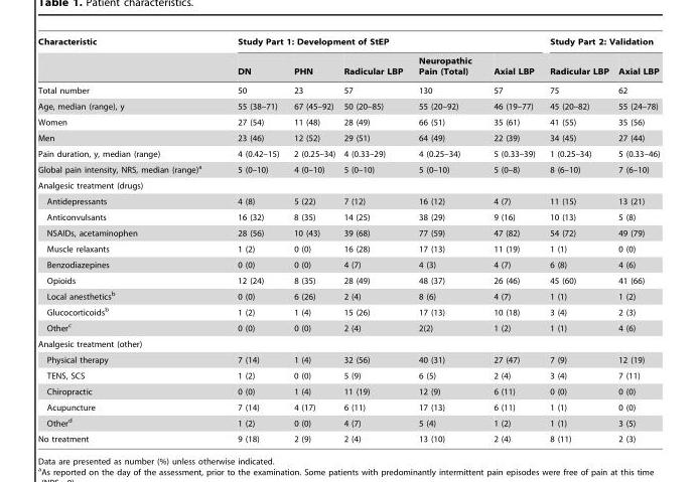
<table><thead><tr><td rowspan="2">Characteristic</td><td colspan="5">Study Part 1: Development of StEP</td><td colspan="2">Study Part 2: Validation</td></tr><tr><td>DN</td><td>PHN</td><td>Radicular LBP</td><td>Neuropathic Pain (Total)</td><td>Axial LBP</td><td>Radicular LBP</td><td>Axial LBP</td></tr></thead><tbody><tr><td>Total number</td><td>50</td><td>23</td><td>57</td><td>130</td><td>57</td><td>75</td><td>62</td></tr><tr><td>Age, median (range), y</td><td>55 (38–71)</td><td>67 (45–92)</td><td>50 (20–85)</td><td>55 (20–92)</td><td>46 (19–77)</td><td>45 (20–82)</td><td>55 (24–78)</td></tr><tr><td>Women</td><td>27 (54)</td><td>11 (48)</td><td>28 (49)</td><td>66 (51)</td><td>35 (61)</td><td>41 (55)</td><td>35 (56)</td></tr><tr><td>Men</td><td>23 (46)</td><td>12 (52)</td><td>29 (51)</td><td>64 (49)</td><td>22 (39)</td><td>34 (45)</td><td>27 (44)</td></tr><tr><td>Pain duration, y, median (range)</td><td>4 (0.42–15)</td><td>2 (0.25–34)</td><td>4 (0.33–29)</td><td>4 (0.25–34)</td><td>5 (0.33–39)</td><td>1 (0.25–34)</td><td>5 (0.33–46)</td></tr><tr><td>Global pain intensity, NRS, median (range)<sup>a</sup></td><td>5 (0–10)</td><td>4 (0–10)</td><td>5 (0–10)</td><td>5 (0–10)</td><td>5 (0–8)</td><td>8 (6–10)</td><td>7 (6–10)</td></tr><tr><td colspan="8">Analgesic treatment (drugs)</td></tr><tr><td>Antidepressants</td><td>4 (8)</td><td>5 (22)</td><td>7 (12)</td><td>16 (12)</td><td>4 (7)</td><td>11 (15)</td><td>13 (21)</td></tr><tr><td>Anticonvulsants</td><td>16 (32)</td><td>8 (35)</td><td>14 (25)</td><td>38 (29)</td><td>9 (16)</td><td>10 (13)</td><td>5 (8)</td></tr><tr><td>NSAIDs, acetaminophen</td><td>28 (56)</td><td>10 (43)</td><td>39 (68)</td><td>77 (59)</td><td>47 (82)</td><td>54 (72)</td><td>49 (79)</td></tr><tr><td>Muscle relaxants</td><td>1 (2)</td><td>0 (0)</td><td>16 (28)</td><td>17 (13)</td><td>11 (19)</td><td>1 (1)</td><td>0 (0)</td></tr><tr><td>Benzodiazepines</td><td>0 (0)</td><td>0 (0)</td><td>4 (7)</td><td>4 (3)</td><td>4 (7)</td><td>6 (8)</td><td>4 (6)</td></tr><tr><td>Opioids</td><td>12 (24)</td><td>8 (35)</td><td>28 (49)</td><td>48 (37)</td><td>26 (46)</td><td>45 (60)</td><td>41 (66)</td></tr><tr><td>Local anesthetics<sup>b</sup></td><td>0 (0)</td><td>6 (26)</td><td>2 (4)</td><td>8 (6)</td><td>4 (7)</td><td>1 (1)</td><td>1 (2)</td></tr><tr><td>Glucocorticoids<sup>b</sup></td><td>1 (2)</td><td>1 (4)</td><td>15 (26)</td><td>17 (13)</td><td>10 (18)</td><td>3 (4)</td><td>2 (3)</td></tr><tr><td>Other<sup>c</sup></td><td>0 (0)</td><td>0 (0)</td><td>2 (4)</td><td>2(2)</td><td>1 (2)</td><td>1 (1)</td><td>4 (6)</td></tr><tr><td colspan="8">Analgesic treatment (other)</td></tr><tr><td>Physical therapy</td><td>7 (14)</td><td>1 (4)</td><td>32 (56)</td><td>40 (31)</td><td>27 (47)</td><td>7 (9)</td><td>12 (19)</td></tr><tr><td>TENS, SCS</td><td>1 (2)</td><td>0 (0)</td><td>5 (9)</td><td>6 (5)</td><td>2 (4)</td><td>3 (4)</td><td>7 (11)</td></tr><tr><td>Chiropractic</td><td>0 (0)</td><td>1 (4)</td><td>11 (19)</td><td>12 (9)</td><td>6 (11)</td><td>0 (0)</td><td>0 (0)</td></tr><tr><td>Acupuncture</td><td>7 (14)</td><td>4 (17)</td><td>6 (11)</td><td>17 (13)</td><td>6 (11)</td><td>1 (1)</td><td>0 (0)</td></tr><tr><td>Other<sup>d</sup></td><td>1 (2)</td><td>0 (0)</td><td>4 (7)</td><td>5 (4)</td><td>1 (2)</td><td>1 (1)</td><td>3 (5)</td></tr><tr><td>No treatment</td><td>9 (18)</td><td>2 (9)</td><td>2 (4)</td><td>13 (10)</td><td>2 (4)</td><td>8 (11)</td><td>2 (3)</td></tr></tbody></table>